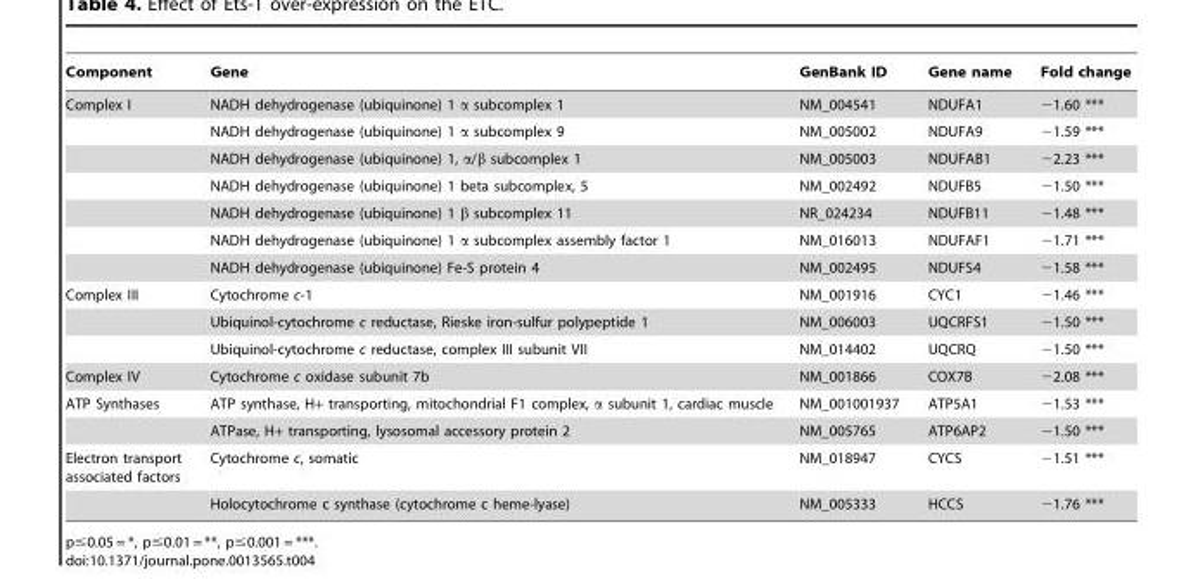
<table><thead><tr><td>Component</td><td>Gene</td><td>GenBank ID</td><td>Gene name</td><td>Fold change</td></tr></thead><tbody><tr><td rowspan="7">Complex I</td><td>NADH dehydrogenase (ubiquinone) 1 α subcomplex 1</td><td>NM_004541</td><td>NDUFA1</td><td>−1.60 ***</td></tr><tr><td>NADH dehydrogenase (ubiquinone) 1 α subcomplex 9</td><td>NM_005002</td><td>NDUFA9</td><td>−1.59 ***</td></tr><tr><td>NADH dehydrogenase (ubiquinone) 1, α/β subcomplex 1</td><td>NM_005003</td><td>NDUFAB1</td><td>−2.23 ***</td></tr><tr><td>NADH dehydrogenase (ubiquinone) 1 beta subcomplex, 5</td><td>NM_002492</td><td>NDUFB5</td><td>−1.50 ***</td></tr><tr><td>NADH dehydrogenase (ubiquinone) 1 β subcomplex 11</td><td>NR_024234</td><td>NDUFB11</td><td>−1.48 ***</td></tr><tr><td>NADH dehydrogenase (ubiquinone) 1 α subcomplex assembly factor 1</td><td>NM_016013</td><td>NDUFAF1</td><td>−1.71 ***</td></tr><tr><td>NADH dehydrogenase (ubiquinone) Fe-S protein 4</td><td>NM_002495</td><td>NDUFS4</td><td>−1.58 ***</td></tr><tr><td rowspan="3">Complex III</td><td>Cytochrome c-1</td><td>NM_001916</td><td>CYC1</td><td>−1.46 ***</td></tr><tr><td>Ubiquinol-cytochrome c reductase, Rieske iron-sulfur polypeptide 1</td><td>NM_006003</td><td>UQCRFS1</td><td>−1.50 ***</td></tr><tr><td>Ubiquinol-cytochrome c reductase, complex III subunit VII</td><td>NM_014402</td><td>UQCRQ</td><td>−1.50 ***</td></tr><tr><td>Complex IV</td><td>Cytochrome c oxidase subunit 7b</td><td>NM_001866</td><td>COX7B</td><td>−2.08 ***</td></tr><tr><td rowspan="2">ATP Synthases</td><td>ATP synthase, H+ transporting, mitochondrial F1 complex, α subunit 1, cardiac muscle</td><td>NM_001001937</td><td>ATP5A1</td><td>−1.53 ***</td></tr><tr><td>ATPase, H+ transporting, lysosomal accessory protein 2</td><td>NM_005765</td><td>ATP6AP2</td><td>−1.50 ***</td></tr><tr><td rowspan="2">Electron transport associated factors</td><td>Cytochrome c, somatic</td><td>NM_018947</td><td>CYCS</td><td>−1.51 ***</td></tr><tr><td>Holocytochrome c synthase (cytochrome c heme-lyase)</td><td>NM_005333</td><td>HCCS</td><td>−1.76 ***</td></tr></tbody></table>